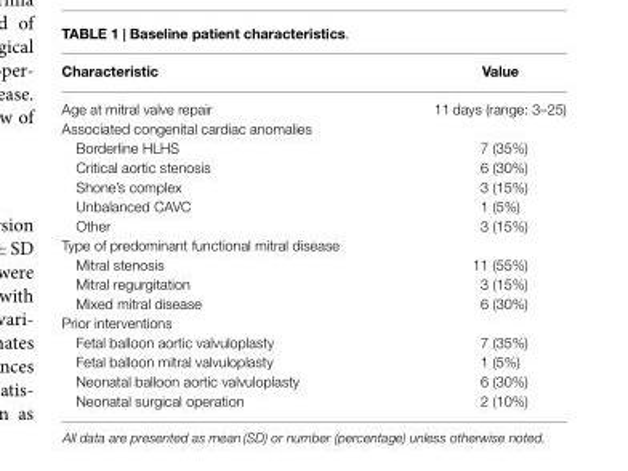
<table><thead><tr><td>Characteristic</td><td>Value</td></tr></thead><tbody><tr><td>Age at mitral valve repair</td><td>11 days (range: 3–25)</td></tr><tr><td colspan="2">Associated congenital cardiac anomalies</td></tr><tr><td>Borderline HLHS</td><td>7 (35%)</td></tr><tr><td>Critical aortic stenosis</td><td>6 (30%)</td></tr><tr><td>Shone’s complex</td><td>3 (15%)</td></tr><tr><td>Unbalanced CAVC</td><td>1 (5%)</td></tr><tr><td>Other</td><td>3 (15%)</td></tr><tr><td colspan="2">Type of predominant functional mitral disease</td></tr><tr><td>Mitral stenosis</td><td>11 (55%)</td></tr><tr><td>Mitral regurgitation</td><td>3 (15%)</td></tr><tr><td>Mixed mitral disease</td><td>6 (30%)</td></tr><tr><td colspan="2">Prior interventions</td></tr><tr><td>Fetal balloon aortic valvuloplasty</td><td>7 (35%)</td></tr><tr><td>Fetal balloon mitral valvuloplasty</td><td>1 (5%)</td></tr><tr><td>Neonatal balloon aortic valvuloplasty</td><td>6 (30%)</td></tr><tr><td>Neonatal surgical operation</td><td>2 (10%)</td></tr></tbody></table>